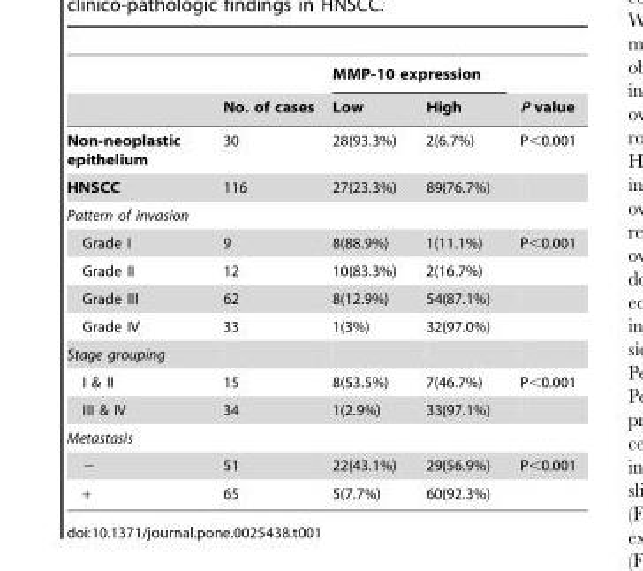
<table><thead><tr><td rowspan="2"></td><td rowspan="2">No. of cases</td><td colspan="2">MMP-10 expression</td><td rowspan="2">P value</td></tr><tr><td>Low</td><td>High</td></tr></thead><tbody><tr><td>Non-neoplastic epithelium</td><td>30</td><td>28(93.3%)</td><td>2(6.7%)</td><td>P&lt;0.001</td></tr><tr><td>HNSCC</td><td>116</td><td>27(23.3%)</td><td>89(76.7%)</td><td></td></tr><tr><td colspan="5">Pattern of invasion</td></tr><tr><td>Grade I</td><td>9</td><td>8(88.9%)</td><td>1(11.1%)</td><td>P&lt;0.001</td></tr><tr><td>Grade II</td><td>12</td><td>10(83.3%)</td><td>2(16.7%)</td><td></td></tr><tr><td>Grade III</td><td>62</td><td>8(12.9%)</td><td>54(87.1%)</td><td></td></tr><tr><td>Grade IV</td><td>33</td><td>1(3%)</td><td>32(97.0%)</td><td></td></tr><tr><td colspan="5">Stage grouping</td></tr><tr><td>I &amp; II</td><td>15</td><td>8(53.5%)</td><td>7(46.7%)</td><td>P&lt;0.001</td></tr><tr><td>III &amp; IV</td><td>34</td><td>1(2.9%)</td><td>33(97.1%)</td><td></td></tr><tr><td colspan="5">Metastasis</td></tr><tr><td>−</td><td>51</td><td>22(43.1%)</td><td>29(56.9%)</td><td>P&lt;0.001</td></tr><tr><td>+</td><td>65</td><td>5(7.7%)</td><td>60(92.3%)</td><td></td></tr></tbody></table>